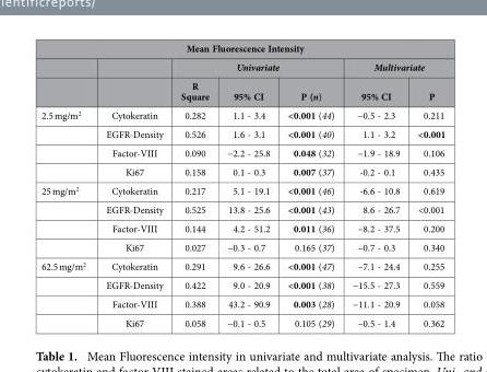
<table><thead><tr><td colspan="7">Mean Fluorescence Intensity</td></tr><tr><td rowspan="2"></td><td rowspan="2"></td><td colspan="3">Univariate</td><td colspan="2">Multivariate</td></tr><tr><td>R Square</td><td>95% CI</td><td>P (n)</td><td>95% CI</td><td>P</td></tr></thead><tbody><tr><td rowspan="4">2.5 mg/m<sup>2</sup></td><td>Cytokeratin</td><td>0.282</td><td>1.1 - 3.4</td><td>&lt;0.001 (44)</td><td>−0.5 - 2.3</td><td>0.211</td></tr><tr><td>EGFR-Density</td><td>0.526</td><td>1.6 - 3.1</td><td>&lt;0.001 (40)</td><td>1.1 - 3.2</td><td>&lt;0.001</td></tr><tr><td>Factor-VIII</td><td>0.090</td><td>−2.2 - 25.8</td><td>0.048 (32)</td><td>−1.9 - 18.9</td><td>0.106</td></tr><tr><td>Ki67</td><td>0.158</td><td>0.1 - 0.3</td><td>0.007 (37)</td><td>-0.2 - 0.1</td><td>0.435</td></tr><tr><td rowspan="4">25 mg/m<sup>2</sup></td><td>Cytokeratin</td><td>0.217</td><td>5.1 - 19.1</td><td>&lt;0.001 (46)</td><td>-6.6 - 10.8</td><td>0.619</td></tr><tr><td>EGFR-Density</td><td>0.525</td><td>13.8 - 25.6</td><td>&lt;0.001 (43)</td><td>8.6 - 26.7</td><td>&lt;0.001</td></tr><tr><td>Factor-VIII</td><td>0.144</td><td>4.2 - 51.2</td><td>0.011 (36)</td><td>−8.2 - 37.5</td><td>0.200</td></tr><tr><td>Ki67</td><td>0.027</td><td>−0.3 - 0.7</td><td>0.165 (37)</td><td>−0.7 - 0.3</td><td>0.340</td></tr><tr><td rowspan="4">62.5 mg/m<sup>2</sup></td><td>Cytokeratin</td><td>0.291</td><td>9.6 - 26.6</td><td>&lt;0.001 (47)</td><td>−7.1 - 24.4</td><td>0.255</td></tr><tr><td>EGFR-Density</td><td>0.422</td><td>9.0 - 20.9</td><td>&lt;0.001 (38)</td><td>−15.5 - 27.3</td><td>0.559</td></tr><tr><td>Factor-VIII</td><td>0.388</td><td>43.2 - 90.9</td><td>0.003 (28)</td><td>−11.1 - 20.9</td><td>0.058</td></tr><tr><td>Ki67</td><td>0.058</td><td>−0.1 - 0.5</td><td>0.105 (29)</td><td>−0.5 - 1.4</td><td>0.362</td></tr></tbody></table>